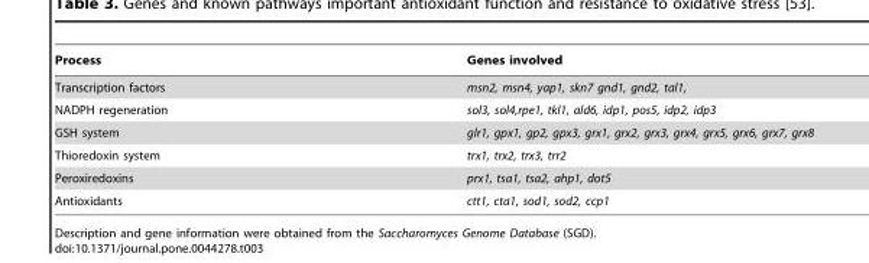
<table><thead><tr><td>Process</td><td>Genes involved</td></tr></thead><tbody><tr><td>Transcription factors</td><td>msn2, msn4, yap1, skn7 gnd1, gnd2, tal1,</td></tr><tr><td>NADPH regeneration</td><td>sol3, sol4,rpe1, tkl1, ald6, idp1, pos5, idp2, idp3</td></tr><tr><td>GSH system</td><td>glr1, gpx1, gp2, gpx3, grx1, grx2, grx3, grx4, grx5, grx6, grx7, grx8</td></tr><tr><td>Thioredoxin system</td><td>trx1, trx2, trx3, trr2</td></tr><tr><td>Peroxiredoxins</td><td>prx1, tsa1, tsa2, ahp1, dot5</td></tr><tr><td>Antioxidants</td><td>ctt1, cta1, sod1, sod2, ccp1</td></tr></tbody></table>